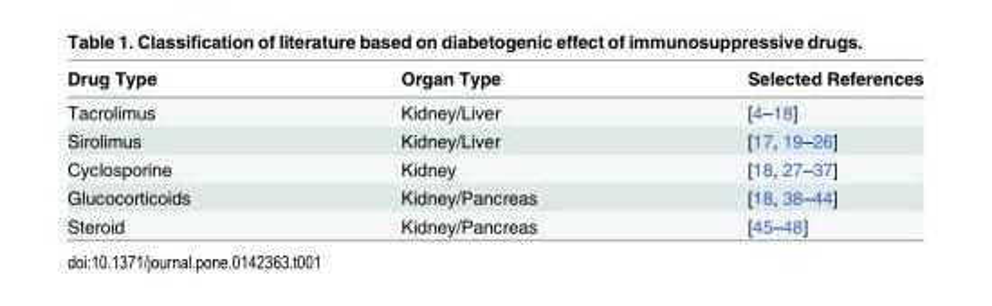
<table><thead><tr><td>Drug Type</td><td>Organ Type</td><td>Selected References</td></tr></thead><tbody><tr><td>Tacrolimus</td><td>Kidney/Liver</td><td>[4–18]</td></tr><tr><td>Sirolimus</td><td>Kidney/Liver</td><td>[17, 19–26]</td></tr><tr><td>Cyclosporine</td><td>Kidney</td><td>[18, 27–37]</td></tr><tr><td>Glucocorticoids</td><td>Kidney/Pancreas</td><td>[18, 38–44]</td></tr><tr><td>Steroid</td><td>Kidney/Pancreas</td><td>[45–48]</td></tr></tbody></table>